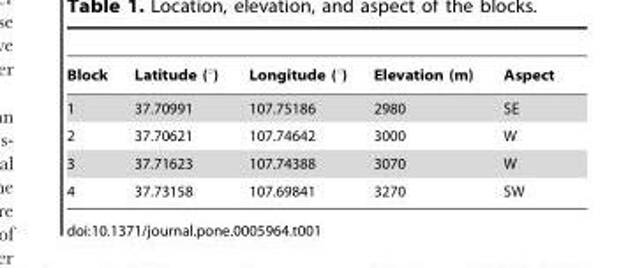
<table><thead><tr><td>Block</td><td>Latitude (°)</td><td>Longitude (°)</td><td>Elevation (m)</td><td>Aspect</td></tr></thead><tbody><tr><td>1</td><td>37.70991</td><td>107.75186</td><td>2980</td><td>SE</td></tr><tr><td>2</td><td>37.70621</td><td>107.74642</td><td>3000</td><td>W</td></tr><tr><td>3</td><td>37.71623</td><td>107.74388</td><td>3070</td><td>W</td></tr><tr><td>4</td><td>37.73158</td><td>107.69841</td><td>3270</td><td>SW</td></tr></tbody></table>